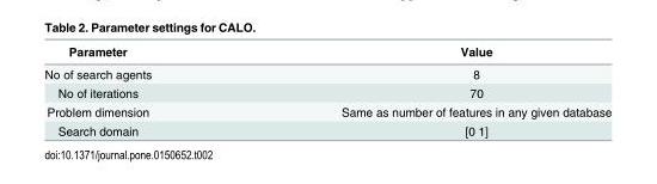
<table><thead><tr><td>Parameter</td><td>Value</td></tr></thead><tbody><tr><td>No of search agents</td><td>8</td></tr><tr><td>No of iterations</td><td>70</td></tr><tr><td>Problem dimension</td><td>Same as number of features in any given database</td></tr><tr><td>Search domain</td><td>[0 1]</td></tr></tbody></table>